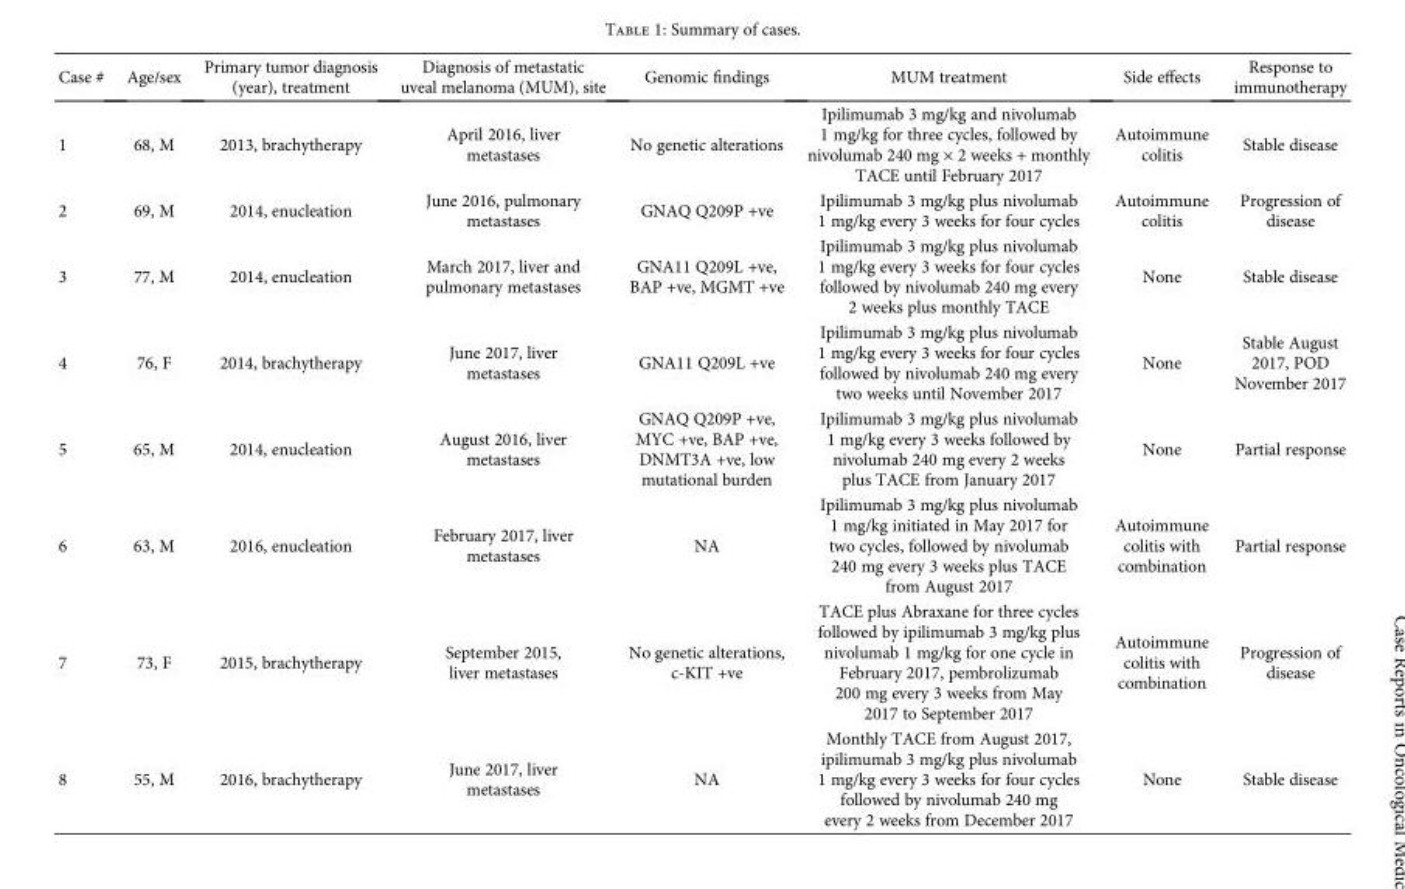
<table><thead><tr><td>Case #</td><td>Age/sex</td><td>Primary tumor diagnosis (year), treatment</td><td>Diagnosis of metastatic uveal melanoma (MUM), site</td><td>Genomic findings</td><td>MUM treatment</td><td>Side effects</td><td>Response to immunotherapy</td></tr></thead><tbody><tr><td>1</td><td>68, M</td><td>2013, brachytherapy</td><td>April 2016, liver metastases</td><td>No genetic alterations</td><td>Ipilimumab 3 mg/kg and nivolumab 1 mg/kg for three cycles, followed by nivolumab 240 mg × 2 weeks + monthly TACE until February 2017</td><td>Autoimmune colitis</td><td>Stable disease</td></tr><tr><td>2</td><td>69, M</td><td>2014, enucleation</td><td>June 2016, pulmonary metastases</td><td>GNAQ Q209P +ve</td><td>Ipilimumab 3 mg/kg plus nivolumab 1 mg/kg every 3 weeks for four cycles</td><td>Autoimmune colitis</td><td>Progression of disease</td></tr><tr><td>3</td><td>77, M</td><td>2014, enucleation</td><td>March 2017, liver and pulmonary metastases</td><td>GNA11 Q209L +ve, BAP +ve, MGMT +ve</td><td>Ipilimumab 3 mg/kg plus nivolumab 1 mg/kg every 3 weeks for four cycles followed by nivolumab 240 mg every 2 weeks plus monthly TACE</td><td>None</td><td>Stable disease</td></tr><tr><td>4</td><td>76, F</td><td>2014, brachytherapy</td><td>June 2017, liver metastases</td><td>GNA11 Q209L +ve</td><td>Ipilimumab 3 mg/kg plus nivolumab 1 mg/kg every 3 weeks for four cycles followed by nivolumab 240 mg every two weeks until November 2017</td><td>None</td><td>Stable August 2017, POD November 2017</td></tr><tr><td>5</td><td>65, M</td><td>2014, enucleation</td><td>August 2016, liver metastases</td><td>GNAQ Q209P +ve, MYC +ve, BAP +ve, DNMT3A +ve, low mutational burden</td><td>Ipilimumab 3 mg/kg plus nivolumab 1 mg/kg every 3 weeks followed by nivolumab 240 mg every 2 weeks plus TACE from January 2017</td><td>None</td><td>Partial response</td></tr><tr><td>6</td><td>63, M</td><td>2016, enucleation</td><td>February 2017, liver metastases</td><td>NA</td><td>Ipilimumab 3 mg/kg plus nivolumab 1 mg/kg initiated in May 2017 for two cycles, followed by nivolumab 240 mg every 3 weeks plus TACE from August 2017</td><td>Autoimmune colitis with combination</td><td>Partial response</td></tr><tr><td>7</td><td>73, F</td><td>2015, brachytherapy</td><td>September 2015, liver metastases</td><td>No genetic alterations, c-KIT +ve</td><td>TACE plus Abraxane for three cycles followed by ipilimumab 3 mg/kg plus nivolumab 1 mg/kg for one cycle in February 2017, pembrolizumab 200 mg every 3 weeks from May 2017 to September 2017</td><td>Autoimmune colitis with combination</td><td>Progression of disease</td></tr><tr><td>8</td><td>55, M</td><td>2016, brachytherapy</td><td>June 2017, liver metastases</td><td>NA</td><td>Monthly TACE from August 2017, ipilimumab 3 mg/kg plus nivolumab 1 mg/kg every 3 weeks for four cycles followed by nivolumab 240 mg every 2 weeks from December 2017</td><td>None</td><td>Stable disease</td></tr></tbody></table>